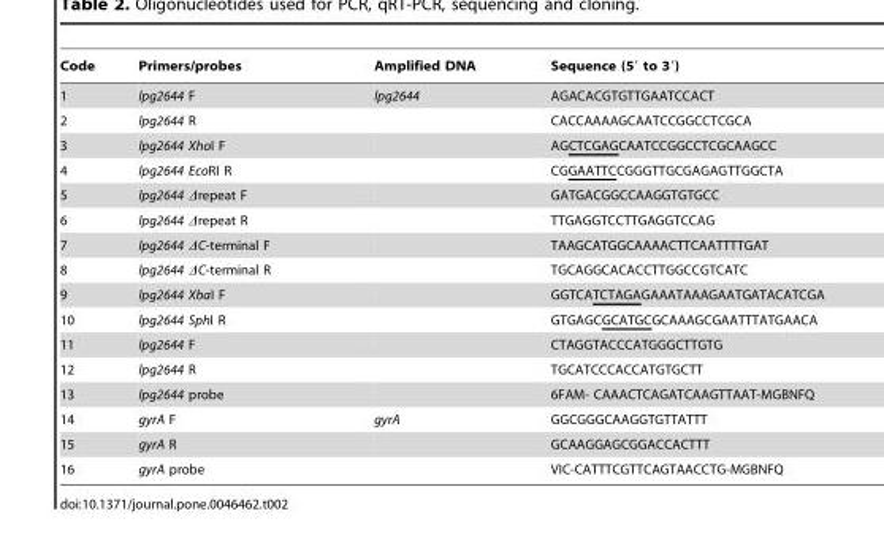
<table><thead><tr><td>Code</td><td>Primers/probes</td><td>Amplified DNA</td><td>Sequence (5′ to 3′)</td></tr></thead><tbody><tr><td>1</td><td>lpg2644 F</td><td>lpg2644</td><td>AGACACGTGTTGAATCCACT</td></tr><tr><td>2</td><td>lpg2644 R</td><td></td><td>CACCAAAAGCAATCCGGCCTCGCA</td></tr><tr><td>3</td><td>lpg2644 XhoI F</td><td></td><td>AGCTCGAGCAATCCGGCCTCGCAAGCC</td></tr><tr><td>4</td><td>lpg2644 EcoRI R</td><td></td><td>CGGAATTCCGGGTTGCGAGAGTTGGCTA</td></tr><tr><td>5</td><td>lpg2644 Δrepeat F</td><td></td><td>GATGACGGCCAAGGTGTGCC</td></tr><tr><td>6</td><td>lpg2644 Δrepeat R</td><td></td><td>TTGAGGTCCTTGAGGTCCAG</td></tr><tr><td>7</td><td>lpg2644 ΔC-terminal F</td><td></td><td>TAAGCATGGCAAAACTTCAATTTTGAT</td></tr><tr><td>8</td><td>lpg2644 ΔC-terminal R</td><td></td><td>TGCAGGCACACCTTGGCCGTCATC</td></tr><tr><td>9</td><td>lpg2644 XbaI F</td><td></td><td>GGTCATCTAGAGAAATAAAGAATGATACATCGA</td></tr><tr><td>10</td><td>lpg2644 SphI R</td><td></td><td>GTGAGCGCATGCGCAAAGCGAATTTATGAACA</td></tr><tr><td>11</td><td>lpg2644 F</td><td></td><td>CTAGGTACCCATGGGCTTGTG</td></tr><tr><td>12</td><td>lpg2644 R</td><td></td><td>TGCATCCCACCATGTGCTT</td></tr><tr><td>13</td><td>lpg2644 probe</td><td></td><td>6FAM- CAAACTCAGATCAAGTTAAT-MGBNFQ</td></tr><tr><td>14</td><td>gyrA F</td><td>gyrA</td><td>GGCGGGCAAGGTGTTATTT</td></tr><tr><td>15</td><td>gyrA R</td><td></td><td>GCAAGGAGCGGACCACTTT</td></tr><tr><td>16</td><td>gyrA probe</td><td></td><td>VIC-CATTTCGTTCAGTAACCTG-MGBNFQ</td></tr></tbody></table>